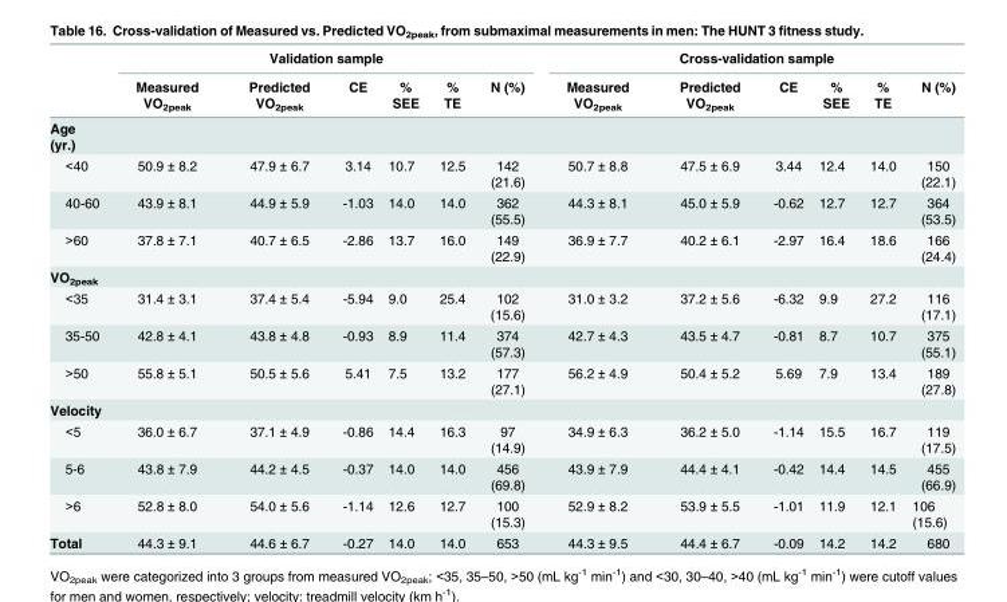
<table><thead><tr><td rowspan="2"></td><td colspan="6">Validation sample</td><td colspan="6">Cross-validation sample</td></tr><tr><td>Measured VO<sub>2peak</sub></td><td>Predicted VO<sub>2peak</sub></td><td>CE</td><td>% SEE</td><td>% TE</td><td>N (%)</td><td>Measured VO<sub>2peak</sub></td><td>Predicted VO<sub>2peak</sub></td><td>CE</td><td>% SEE</td><td>% TE</td><td>N (%)</td></tr></thead><tbody><tr><td colspan="13">Age (yr.)</td></tr><tr><td>&lt;40</td><td>50.9 ± 8.2</td><td>47.9 ± 6.7</td><td>3.14</td><td>10.7</td><td>12.5</td><td>142 (21.6)</td><td>50.7 ± 8.8</td><td>47.5 ± 6.9</td><td>3.44</td><td>12.4</td><td>14.0</td><td>150 (22.1)</td></tr><tr><td>40-60</td><td>43.9 ± 8.1</td><td>44.9 ± 5.9</td><td>-1.03</td><td>14.0</td><td>14.0</td><td>362 (55.5)</td><td>44.3 ± 8.1</td><td>45.0 ± 5.9</td><td>-0.62</td><td>12.7</td><td>12.7</td><td>364 (53.5)</td></tr><tr><td>&gt;60</td><td>37.8 ± 7.1</td><td>40.7 ± 6.5</td><td>-2.86</td><td>13.7</td><td>16.0</td><td>149 (22.9)</td><td>36.9 ± 7.7</td><td>40.2 ± 6.1</td><td>-2.97</td><td>16.4</td><td>18.6</td><td>166 (24.4)</td></tr><tr><td colspan="13">VO<sub>2peak</sub></td></tr><tr><td>&lt;35</td><td>31.4 ± 3.1</td><td>37.4 ± 5.4</td><td>-5.94</td><td>9.0</td><td>25.4</td><td>102 (15.6)</td><td>31.0 ± 3.2</td><td>37.2 ± 5.6</td><td>-6.32</td><td>9.9</td><td>27.2</td><td>116 (17.1)</td></tr><tr><td>35-50</td><td>42.8 ± 4.1</td><td>43.8 ± 4.8</td><td>-0.93</td><td>8.9</td><td>11.4</td><td>374 (57.3)</td><td>42.7 ± 4.3</td><td>43.5 ± 4.7</td><td>-0.81</td><td>8.7</td><td>10.7</td><td>375 (55.1)</td></tr><tr><td>&gt;50</td><td>55.8 ± 5.1</td><td>50.5 ± 5.6</td><td>5.41</td><td>7.5</td><td>13.2</td><td>177 (27.1)</td><td>56.2 ± 4.9</td><td>50.4 ± 5.2</td><td>5.69</td><td>7.9</td><td>13.4</td><td>189 (27.8)</td></tr><tr><td colspan="13">Velocity</td></tr><tr><td>&lt;5</td><td>36.0 ± 6.7</td><td>37.1 ± 4.9</td><td>-0.86</td><td>14.4</td><td>16.3</td><td>97 (14.9)</td><td>34.9 ± 6.3</td><td>36.2 ± 5.0</td><td>-1.14</td><td>15.5</td><td>16.7</td><td>119 (17.5)</td></tr><tr><td>5-6</td><td>43.8 ± 7.9</td><td>44.2 ± 4.5</td><td>-0.37</td><td>14.0</td><td>14.0</td><td>456 (69.8)</td><td>43.9 ± 7.9</td><td>44.4 ± 4.1</td><td>-0.42</td><td>14.4</td><td>14.5</td><td>455 (66.9)</td></tr><tr><td>&gt;6</td><td>52.8 ± 8.0</td><td>54.0 ± 5.6</td><td>-1.14</td><td>12.6</td><td>12.7</td><td>100 (15.3)</td><td>52.9 ± 8.2</td><td>53.9 ± 5.5</td><td>-1.01</td><td>11.9</td><td>12.1</td><td>106 (15.6)</td></tr><tr><td>Total</td><td>44.3 ± 9.1</td><td>44.6 ± 6.7</td><td>-0.27</td><td>14.0</td><td>14.0</td><td>653</td><td>44.3 ± 9.5</td><td>44.4 ± 6.7</td><td>-0.09</td><td>14.2</td><td>14.2</td><td>680</td></tr></tbody></table>